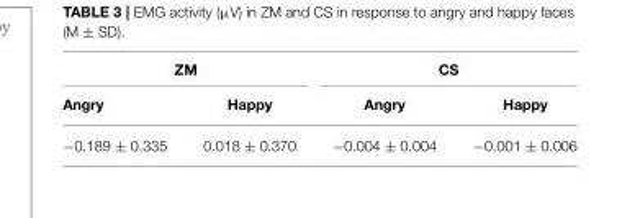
<table><thead><tr><td colspan="2">ZM</td><td colspan="2">CS</td></tr><tr><td>Angry</td><td>Happy</td><td>Angry</td><td>Happy</td></tr></thead><tbody><tr><td>−0.189 ± 0.335</td><td>0.018 ± 0.370</td><td>−0.004 ± 0.004</td><td>−0.001 ± 0.006</td></tr></tbody></table>